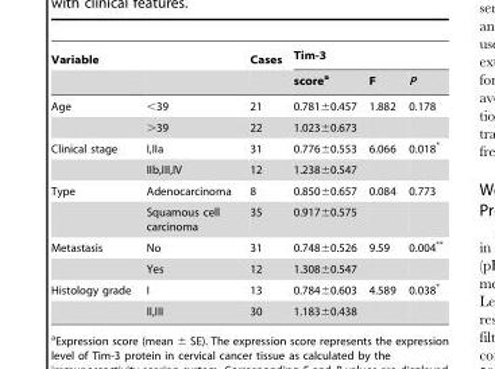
<table><thead><tr><td rowspan="2">Variable</td><td rowspan="2"></td><td rowspan="2">Cases</td><td colspan="3">Tim-3</td></tr><tr><td>scorea</td><td>F</td><td>P</td></tr></thead><tbody><tr><td rowspan="2">Age</td><td>&lt;39</td><td>21</td><td>0.781±0.457</td><td>1.882</td><td>0.178</td></tr><tr><td>&gt;39</td><td>22</td><td>1.023±0.673</td><td></td><td></td></tr><tr><td rowspan="2">Clinical stage</td><td>I,IIa</td><td>31</td><td>0.776±0.553</td><td>6.066</td><td>0.018*</td></tr><tr><td>IIb,III,IV</td><td>12</td><td>1.238±0.547</td><td></td><td></td></tr><tr><td rowspan="2">Type</td><td>Adenocarcinoma</td><td>8</td><td>0.850±0.657</td><td>0.084</td><td>0.773</td></tr><tr><td>Squamous cell carcinoma</td><td>35</td><td>0.917±0.575</td><td></td><td></td></tr><tr><td rowspan="2">Metastasis</td><td>No</td><td>31</td><td>0.748±0.526</td><td>9.59</td><td>0.004**</td></tr><tr><td>Yes</td><td>12</td><td>1.308±0.547</td><td></td><td></td></tr><tr><td rowspan="2">Histology grade</td><td>I</td><td>13</td><td>0.784±0.603</td><td>4.589</td><td>0.038*</td></tr><tr><td>II,III</td><td>30</td><td>1.183±0.438</td><td></td><td></td></tr></tbody></table>